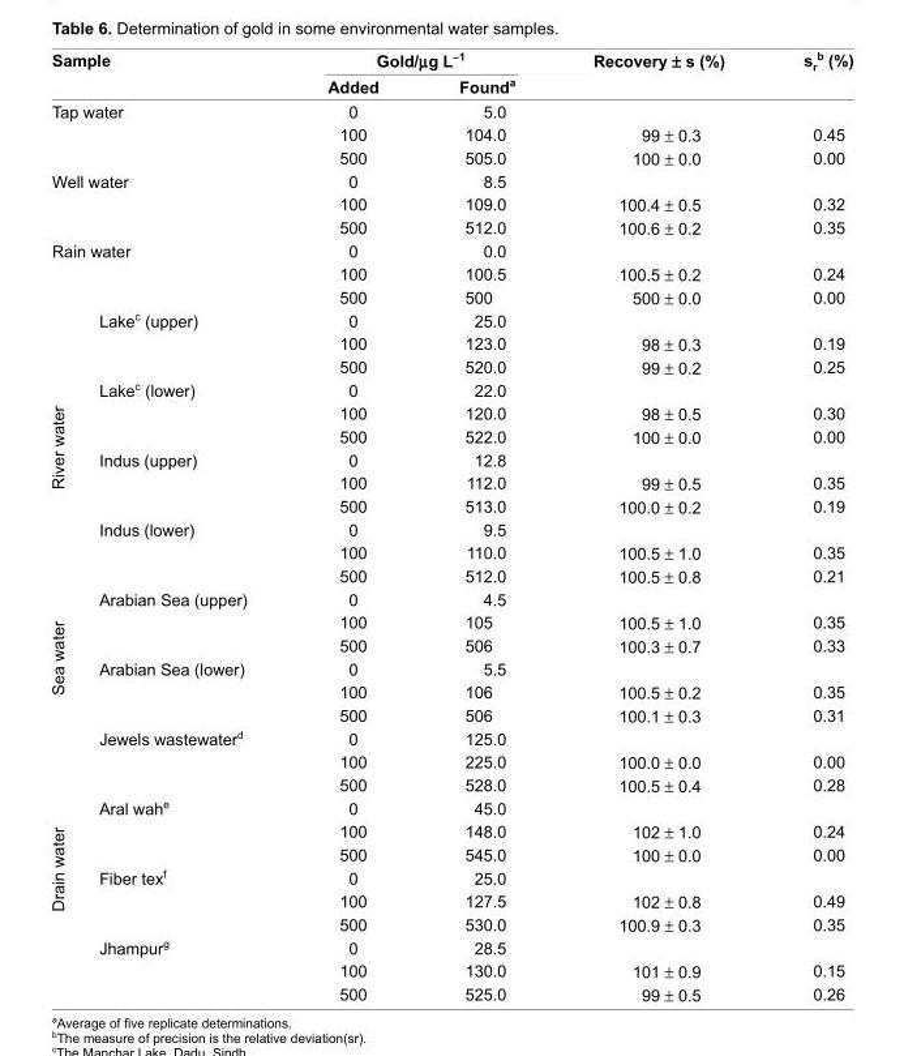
<table><thead><tr><td rowspan="2" colspan="2">Sample</td><td colspan="2">Gold/μg L<sup>−1</sup></td><td rowspan="2">Recovery ± s (%)</td><td rowspan="2">s<sub>r</sub> <sup>b</sup> (%)</td></tr><tr><td>Added</td><td>Found<sup>a</sup></td></tr></thead><tbody><tr><td rowspan="3" colspan="2">Tap water</td><td>0</td><td>5.0</td><td></td><td></td></tr><tr><td>100</td><td>104.0</td><td>99 ± 0.3</td><td>0.45</td></tr><tr><td>500</td><td>505.0</td><td>100 ± 0.0</td><td>0.00</td></tr><tr><td rowspan="3" colspan="2">Well water</td><td>0</td><td>8.5</td><td></td><td></td></tr><tr><td>100</td><td>109.0</td><td>100.4 ± 0.5</td><td>0.32</td></tr><tr><td>500</td><td>512.0</td><td>100.6 ± 0.2</td><td>0.35</td></tr><tr><td rowspan="3" colspan="2">Rain water</td><td>0</td><td>0.0</td><td></td><td></td></tr><tr><td>100</td><td>100.5</td><td>100.5 ± 0.2</td><td>0.24</td></tr><tr><td>500</td><td>500</td><td>500 ± 0.0</td><td>0.00</td></tr><tr><td rowspan="12">River water</td><td rowspan="3">Lake<sup>c</sup> (upper)</td><td>0</td><td>25.0</td><td></td><td></td></tr><tr><td>100</td><td>123.0</td><td>98 ± 0.3</td><td>0.19</td></tr><tr><td>500</td><td>520.0</td><td>99 ± 0.2</td><td>0.25</td></tr><tr><td rowspan="3">Lake<sup>c</sup> (lower)</td><td>0</td><td>22.0</td><td></td><td></td></tr><tr><td>100</td><td>120.0</td><td>98 ± 0.5</td><td>0.30</td></tr><tr><td>500</td><td>522.0</td><td>100 ± 0.0</td><td>0.00</td></tr><tr><td rowspan="3">Indus (upper)</td><td>0</td><td>12.8</td><td></td><td></td></tr><tr><td>100</td><td>112.0</td><td>99 ± 0.5</td><td>0.35</td></tr><tr><td>500</td><td>513.0</td><td>100.0 ± 0.2</td><td>0.19</td></tr><tr><td rowspan="3">Indus (lower)</td><td>0</td><td>9.5</td><td></td><td></td></tr><tr><td>100</td><td>110.0</td><td>100.5 ± 1.0</td><td>0.35</td></tr><tr><td>500</td><td>512.0</td><td>100.5 ± 0.8</td><td>0.21</td></tr><tr><td rowspan="9">Sea water</td><td rowspan="3">Arabian Sea (upper)</td><td>0</td><td>4.5</td><td></td><td></td></tr><tr><td>100</td><td>105</td><td>100.5 ± 1.0</td><td>0.35</td></tr><tr><td>500</td><td>506</td><td>100.3 ± 0.7</td><td>0.33</td></tr><tr><td rowspan="3">Arabian Sea (lower)</td><td>0</td><td>5.5</td><td></td><td></td></tr><tr><td>100</td><td>106</td><td>100.5 ± 0.2</td><td>0.35</td></tr><tr><td>500</td><td>506</td><td>100.1 ± 0.3</td><td>0.31</td></tr><tr><td rowspan="3">Jewels wastewater<sup>d</sup></td><td>0</td><td>125.0</td><td></td><td></td></tr><tr><td>100</td><td>225.0</td><td>100.0 ± 0.0</td><td>0.00</td></tr><tr><td>500</td><td>528.0</td><td>100.5 ± 0.4</td><td>0.28</td></tr><tr><td rowspan="9">Drain water</td><td rowspan="3">Aral wah<sup>e</sup></td><td>0</td><td>45.0</td><td></td><td></td></tr><tr><td>100</td><td>148.0</td><td>102 ± 1.0</td><td>0.24</td></tr><tr><td>500</td><td>545.0</td><td>100 ± 0.0</td><td>0.00</td></tr><tr><td rowspan="3">Fiber tex<sup>f</sup></td><td>0</td><td>25.0</td><td></td><td></td></tr><tr><td>100</td><td>127.5</td><td>102 ± 0.8</td><td>0.49</td></tr><tr><td>500</td><td>530.0</td><td>100.9 ± 0.3</td><td>0.35</td></tr><tr><td rowspan="3">Jhampur<sup>g</sup></td><td>0</td><td>28.5</td><td></td><td></td></tr><tr><td>100</td><td>130.0</td><td>101 ± 0.9</td><td>0.15</td></tr><tr><td>500</td><td>525.0</td><td>99 ± 0.5</td><td>0.26</td></tr></tbody></table>